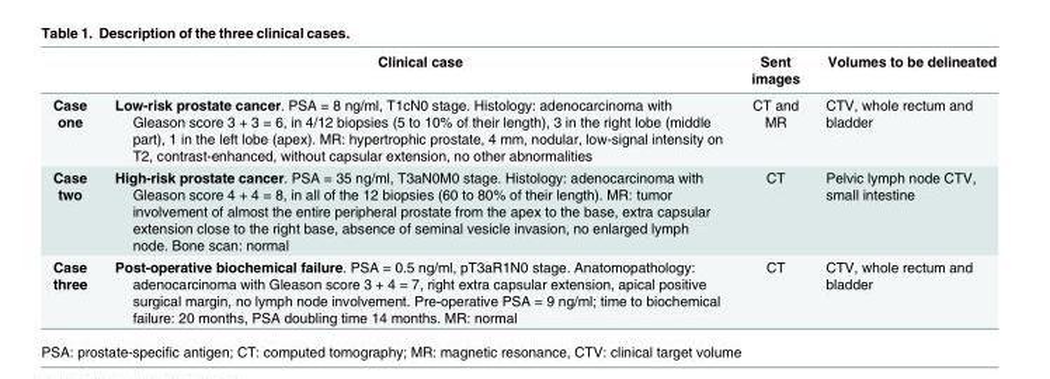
<table><thead><tr><td></td><td>Clinical case</td><td>Sent images</td><td>Volumes to be delineated</td></tr></thead><tbody><tr><td>Case one</td><td>Low-risk prostate cancer. PSA = 8 ng/ml, T1cN0 stage. Histology: adenocarcinoma with Gleason score 3 + 3 = 6, in 4/12 biopsies (5 to 10% of their length), 3 in the right lobe (middle part), 1 in the left lobe (apex). MR: hypertrophic prostate, 4 mm, nodular, low-signal intensity on T2, contrast-enhanced, without capsular extension, no other abnormalities</td><td>CT and MR</td><td>CTV, whole rectum and bladder</td></tr><tr><td>Case two</td><td>High-risk prostate cancer. PSA = 35 ng/ml, T3aN0M0 stage. Histology: adenocarcinoma with Gleason score 4 + 4 = 8, in all of the 12 biopsies (60 to 80% of their length). MR: tumor involvement of almost the entire peripheral prostate from the apex to the base, extra capsular extension close to the right base, absence of seminal vesicle invasion, no enlarged lymph node. Bone scan: normal</td><td>CT</td><td>Pelvic lymph node CTV, small intestine</td></tr><tr><td>Case three</td><td>Post-operative biochemical failure. PSA = 0.5 ng/ml, pT3aR1N0 stage. Anatomopathology: adenocarcinoma with Gleason score 3 + 4 = 7, right extra capsular extension, apical positive surgical margin, no lymph node involvement. Pre-operative PSA = 9 ng/ml; time to biochemical failure: 20 months, PSA doubling time 14 months. MR: normal</td><td>CT</td><td>CTV, whole rectum and bladder</td></tr></tbody></table>